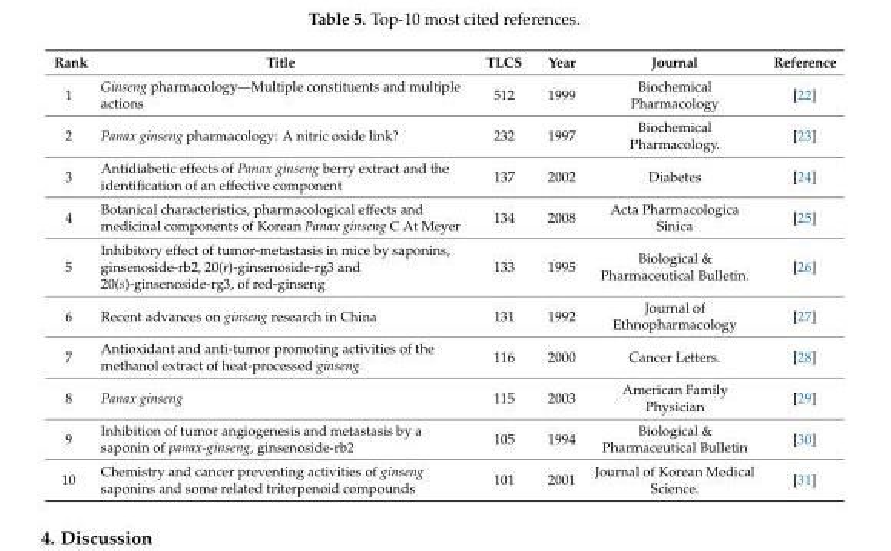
<table><thead><tr><td>Rank</td><td>Title</td><td>TLCS</td><td>Year</td><td>Journal</td><td>Reference</td></tr></thead><tbody><tr><td>1</td><td>Ginseng pharmacology—Multiple constituents and multiple actions</td><td>512</td><td>1999</td><td>Biochemical Pharmacology</td><td>[22]</td></tr><tr><td>2</td><td>Panax ginseng pharmacology: A nitric oxide link?</td><td>232</td><td>1997</td><td>Biochemical Pharmacology.</td><td>[23]</td></tr><tr><td>3</td><td>Antidiabetic effects of Panax ginseng berry extract and the identification of an effective component</td><td>137</td><td>2002</td><td>Diabetes</td><td>[24]</td></tr><tr><td>4</td><td>Botanical characteristics, pharmacological effects and medicinal components of Korean Panax ginseng C At Meyer</td><td>134</td><td>2008</td><td>Acta Pharmacologica Sinica</td><td>[25]</td></tr><tr><td>5</td><td>Inhibitory effect of tumor-metastasis in mice by saponins, ginsenoside-rb2, 20(r)-ginsenoside-rg3 and 20(s)-ginsenoside-rg3, of red-ginseng</td><td>133</td><td>1995</td><td>Biological &amp; Pharmaceutical Bulletin.</td><td>[26]</td></tr><tr><td>6</td><td>Recent advances on ginseng research in China</td><td>131</td><td>1992</td><td>Journal of Ethnopharmacology</td><td>[27]</td></tr><tr><td>7</td><td>Antioxidant and anti-tumor promoting activities of the methanol extract of heat-processed ginseng</td><td>116</td><td>2000</td><td>Cancer Letters.</td><td>[28]</td></tr><tr><td>8</td><td>Panax ginseng</td><td>115</td><td>2003</td><td>American Family Physician</td><td>[29]</td></tr><tr><td>9</td><td>Inhibition of tumor angiogenesis and metastasis by a saponin of panax-ginseng, ginsenoside-rb2</td><td>105</td><td>1994</td><td>Biological &amp; Pharmaceutical Bulletin</td><td>[30]</td></tr><tr><td>10</td><td>Chemistry and cancer preventing activities of ginseng saponins and some related triterpenoid compounds</td><td>101</td><td>2001</td><td>Journal of Korean Medical Science.</td><td>[31]</td></tr></tbody></table>